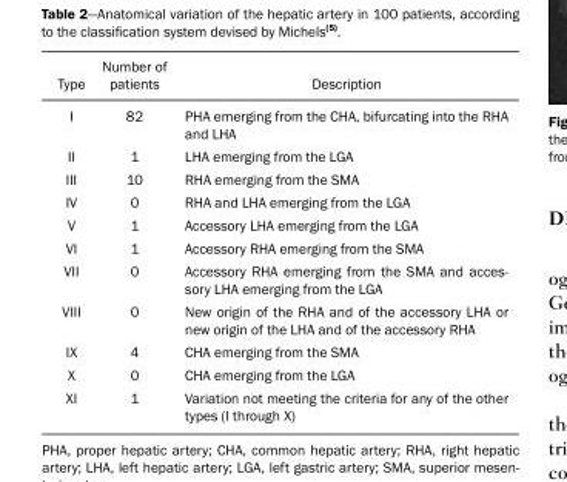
<table><thead><tr><td>Type</td><td>Number of patients</td><td>Description</td></tr></thead><tbody><tr><td>I</td><td>82</td><td>PHA emerging from the CHA, bifurcating into the RHA and LHA</td></tr><tr><td>II</td><td>1</td><td>LHA emerging from the LGA</td></tr><tr><td>III</td><td>10</td><td>RHA emerging from the SMA</td></tr><tr><td>IV</td><td>0</td><td>RHA and LHA emerging from the LGA</td></tr><tr><td>V</td><td>1</td><td>Accessory LHA emerging from the LGA</td></tr><tr><td>VI</td><td>1</td><td>Accessory RHA emerging from the SMA</td></tr><tr><td>VII</td><td>0</td><td>Accessory RHA emerging from the SMA and acces- sory LHA emerging from the LGA</td></tr><tr><td>VIII</td><td>0</td><td>New origin of the RHA and of the accessory LHA or new origin of the LHA and of the accessory RHA</td></tr><tr><td>IX</td><td>4</td><td>CHA emerging from the SMA</td></tr><tr><td>X</td><td>0</td><td>CHA emerging from the LGA</td></tr><tr><td>XI</td><td>1</td><td>Variation not meeting the criteria for any of the other types (I through X)</td></tr></tbody></table>